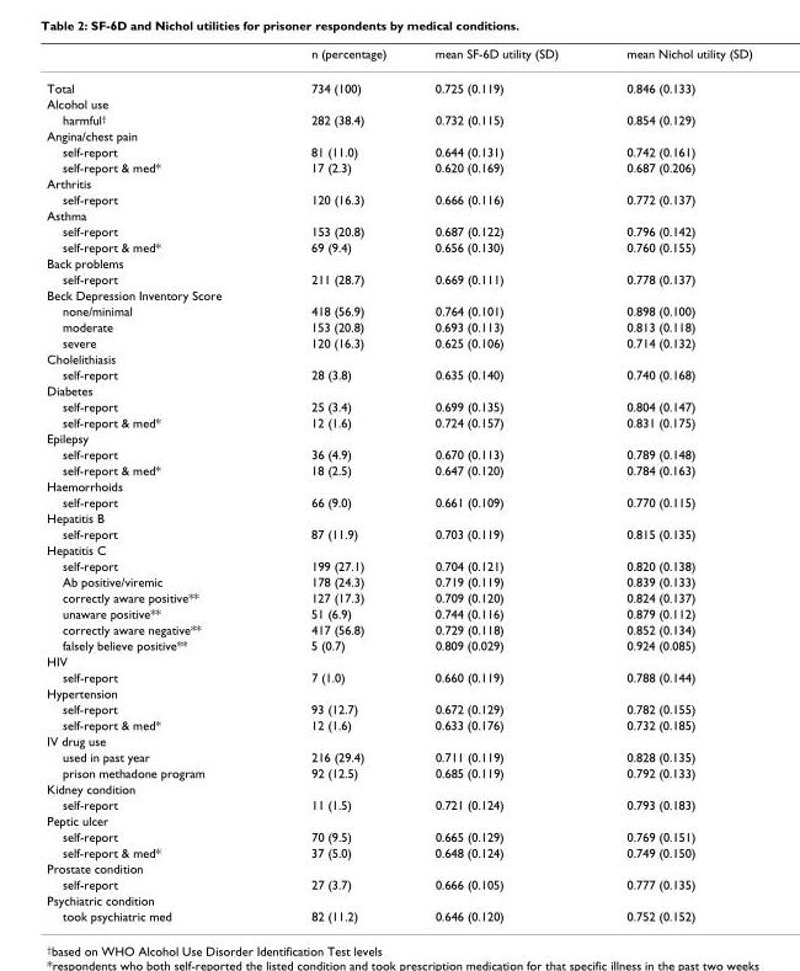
<table><thead><tr><td></td><td>n (percentage)</td><td>mean SF-6D utility (SD)</td><td>mean Nichol utility (SD)</td></tr></thead><tbody><tr><td>Total</td><td>734 (100)</td><td>0.725 (0.119)</td><td>0.846 (0.133)</td></tr><tr><td colspan="4">Alcohol use</td></tr><tr><td>harmful<sup>†</sup></td><td>282 (38.4)</td><td>0.732 (0.115)</td><td>0.854 (0.129)</td></tr><tr><td colspan="4">Angina/chest pain</td></tr><tr><td>self-report</td><td>81 (11.0)</td><td>0.644 (0.131)</td><td>0.742 (0.161)</td></tr><tr><td>self-report &amp; med*</td><td>17 (2.3)</td><td>0.620 (0.169)</td><td>0.687 (0.206)</td></tr><tr><td colspan="4">Arthritis</td></tr><tr><td>self-report</td><td>120 (16.3)</td><td>0.666 (0.116)</td><td>0.772 (0.137)</td></tr><tr><td colspan="4">Asthma</td></tr><tr><td>self-report</td><td>153 (20.8)</td><td>0.687 (0.122)</td><td>0.796 (0.142)</td></tr><tr><td>self-report &amp; med*</td><td>69 (9.4)</td><td>0.656 (0.130)</td><td>0.760 (0.155)</td></tr><tr><td colspan="4">Back problems</td></tr><tr><td>self-report</td><td>211 (28.7)</td><td>0.669 (0.111)</td><td>0.778 (0.137)</td></tr><tr><td colspan="4">Beck Depression Inventory Score</td></tr><tr><td>none/minimal</td><td>418 (56.9)</td><td>0.764 (0.101)</td><td>0.898 (0.100)</td></tr><tr><td>moderate</td><td>153 (20.8)</td><td>0.693 (0.113)</td><td>0.813 (0.118)</td></tr><tr><td>severe</td><td>120 (16.3)</td><td>0.625 (0.106)</td><td>0.714 (0.132)</td></tr><tr><td colspan="4">Cholelithiasis</td></tr><tr><td>self-report</td><td>28 (3.8)</td><td>0.635 (0.140)</td><td>0.740 (0.168)</td></tr><tr><td colspan="4">Diabetes</td></tr><tr><td>self-report</td><td>25 (3.4)</td><td>0.699 (0.135)</td><td>0.804 (0.147)</td></tr><tr><td>self-report &amp; med*</td><td>12 (1.6)</td><td>0.724 (0.157)</td><td>0.831 (0.175)</td></tr><tr><td colspan="4">Epilepsy</td></tr><tr><td>self-report</td><td>36 (4.9)</td><td>0.670 (0.113)</td><td>0.789 (0.148)</td></tr><tr><td>self-report &amp; med*</td><td>18 (2.5)</td><td>0.647 (0.120)</td><td>0.784 (0.163)</td></tr><tr><td colspan="4">Haemorrhoids</td></tr><tr><td>self-report</td><td>66 (9.0)</td><td>0.661 (0.109)</td><td>0.770 (0.115)</td></tr><tr><td colspan="4">Hepatitis B</td></tr><tr><td>self-report</td><td>87 (11.9)</td><td>0.703 (0.119)</td><td>0.815 (0.135)</td></tr><tr><td colspan="4">Hepatitis C</td></tr><tr><td>self-report</td><td>199 (27.1)</td><td>0.704 (0.121)</td><td>0.820 (0.138)</td></tr><tr><td>Ab positive/viremic</td><td>178 (24.3)</td><td>0.719 (0.119)</td><td>0.839 (0.133)</td></tr><tr><td>correctly aware positive**</td><td>127 (17.3)</td><td>0.709 (0.120)</td><td>0.824 (0.137)</td></tr><tr><td>unaware positive**</td><td>51 (6.9)</td><td>0.744 (0.116)</td><td>0.879 (0.112)</td></tr><tr><td>correctly aware negative**</td><td>417 (56.8)</td><td>0.729 (0.118)</td><td>0.852 (0.134)</td></tr><tr><td>falsely believe positive**</td><td>5 (0.7)</td><td>0.809 (0.029)</td><td>0.924 (0.085)</td></tr><tr><td colspan="4">HIV</td></tr><tr><td>self-report</td><td>7 (1.0)</td><td>0.660 (0.119)</td><td>0.788 (0.144)</td></tr><tr><td colspan="4">Hypertension</td></tr><tr><td>self-report</td><td>93 (12.7)</td><td>0.672 (0.129)</td><td>0.782 (0.155)</td></tr><tr><td>self-report &amp; med*</td><td>12 (1.6)</td><td>0.633 (0.176)</td><td>0.732 (0.185)</td></tr><tr><td colspan="4">IV drug use</td></tr><tr><td>used in past year</td><td>216 (29.4)</td><td>0.711 (0.119)</td><td>0.828 (0.135)</td></tr><tr><td>prison methadone program</td><td>92 (12.5)</td><td>0.685 (0.119)</td><td>0.792 (0.133)</td></tr><tr><td colspan="4">Kidney condition</td></tr><tr><td>self-report</td><td>11 (1.5)</td><td>0.721 (0.124)</td><td>0.793 (0.183)</td></tr><tr><td colspan="4">Peptic ulcer</td></tr><tr><td>self-report</td><td>70 (9.5)</td><td>0.665 (0.129)</td><td>0.769 (0.151)</td></tr><tr><td>self-report &amp; med*</td><td>37 (5.0)</td><td>0.648 (0.124)</td><td>0.749 (0.150)</td></tr><tr><td colspan="4">Prostate condition</td></tr><tr><td>self-report</td><td>27 (3.7)</td><td>0.666 (0.105)</td><td>0.777 (0.135)</td></tr><tr><td colspan="4">Psychiatric condition</td></tr><tr><td>took psychiatric med</td><td>82 (11.2)</td><td>0.646 (0.120)</td><td>0.752 (0.152)</td></tr></tbody></table>